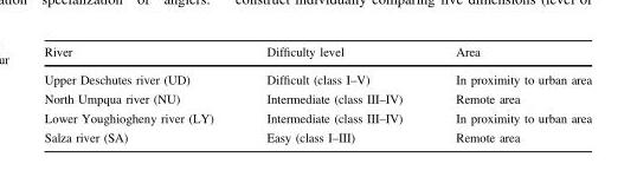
<table><thead><tr><td>River</td><td>Difficulty level</td><td>Area</td></tr></thead><tbody><tr><td>Upper Deschutes river (UD)</td><td>Difficult (class I–V)</td><td>In proximity to urban area</td></tr><tr><td>North Umpqua river (NU)</td><td>Intermediate (class III–IV)</td><td>Remote area</td></tr><tr><td>Lower Youghiogheny river (LY)</td><td>Intermediate (class III–IV)</td><td>In proximity to urban area</td></tr><tr><td>Salza river (SA)</td><td>Easy (class I–III)</td><td>Remote area</td></tr></tbody></table>